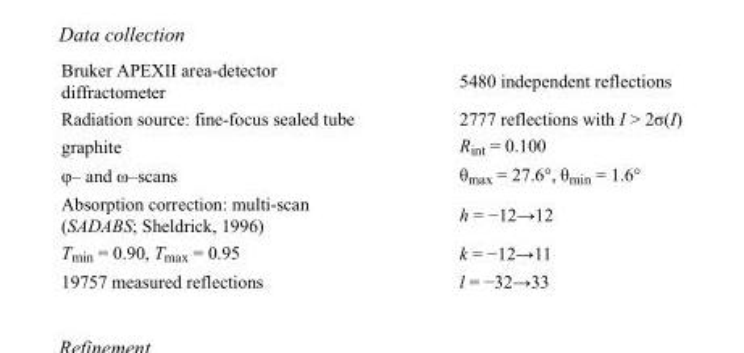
<table><tbody><tr><td>Bruker APEXII area-detector diffractometer</td><td>5480 independent reflections</td></tr><tr><td>Radiation source: fine-focus sealed tube</td><td>2777 reflections with I &gt; 2σ(I)</td></tr><tr><td>graphite</td><td>R<sub>int</sub> = 0.100</td></tr><tr><td>φ– and ω–scans</td><td>θ<sub>max</sub> = 27.6°, θ<sub>min</sub> = 1.6°</td></tr><tr><td>Absorption correction: multi-scan (SADABS; Sheldrick, 1996)</td><td>h = −12→12</td></tr><tr><td>T<sub>min</sub> = 0.90, T<sub>max</sub> = 0.95</td><td>k = −12→11</td></tr><tr><td>19757 measured reflections</td><td>l = −32→33</td></tr></tbody></table>